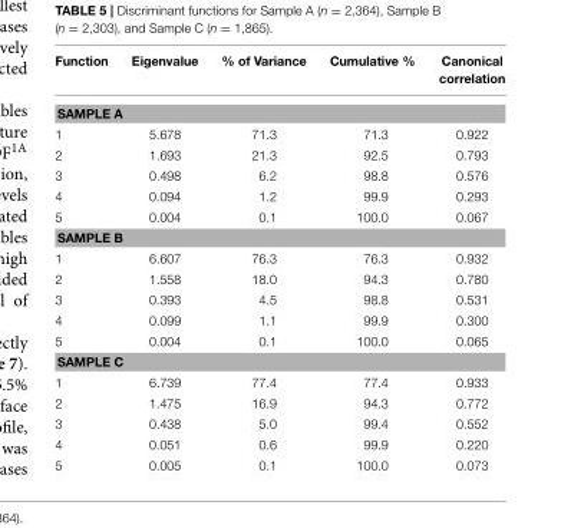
<table><thead><tr><td>Function</td><td>Eigenvalue</td><td>% of Variance</td><td>Cumulative %</td><td>Canonical correlation</td></tr></thead><tbody><tr><td colspan="5">SAMPLE A</td></tr><tr><td>1</td><td>5.678</td><td>71.3</td><td>71.3</td><td>0.922</td></tr><tr><td>2</td><td>1.693</td><td>21.3</td><td>92.5</td><td>0.793</td></tr><tr><td>3</td><td>0.498</td><td>6.2</td><td>98.8</td><td>0.576</td></tr><tr><td>4</td><td>0.094</td><td>1.2</td><td>99.9</td><td>0.293</td></tr><tr><td>5</td><td>0.004</td><td>0.1</td><td>100.0</td><td>0.067</td></tr><tr><td colspan="5">SAMPLE B</td></tr><tr><td>1</td><td>6.607</td><td>76.3</td><td>76.3</td><td>0.932</td></tr><tr><td>2</td><td>1.558</td><td>18.0</td><td>94.3</td><td>0.780</td></tr><tr><td>3</td><td>0.393</td><td>4.5</td><td>98.8</td><td>0.531</td></tr><tr><td>4</td><td>0.099</td><td>1.1</td><td>99.9</td><td>0.300</td></tr><tr><td>5</td><td>0.004</td><td>0.1</td><td>100.0</td><td>0.065</td></tr><tr><td colspan="5">SAMPLE C</td></tr><tr><td>1</td><td>6.739</td><td>77.4</td><td>77.4</td><td>0.933</td></tr><tr><td>2</td><td>1.475</td><td>16.9</td><td>94.3</td><td>0.772</td></tr><tr><td>3</td><td>0.438</td><td>5.0</td><td>99.4</td><td>0.552</td></tr><tr><td>4</td><td>0.051</td><td>0.6</td><td>99.9</td><td>0.220</td></tr><tr><td>5</td><td>0.005</td><td>0.1</td><td>100.0</td><td>0.073</td></tr></tbody></table>